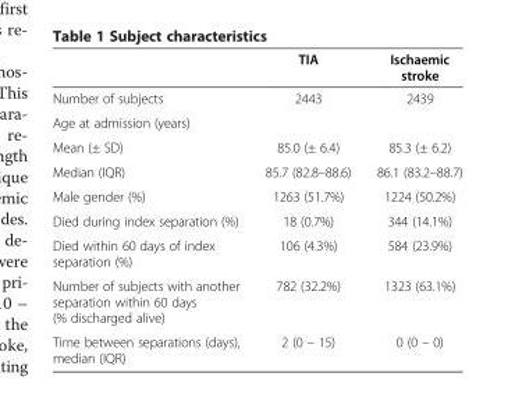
<table><thead><tr><td></td><td>TIA</td><td>Ischaemic stroke</td></tr></thead><tbody><tr><td>Number of subjects</td><td>2443</td><td>2439</td></tr><tr><td colspan="3">Age at admission (years)</td></tr><tr><td>Mean (± SD)</td><td>85.0 (± 6.4)</td><td>85.3 (± 6.2)</td></tr><tr><td>Median (IQR)</td><td>85.7 (82.8–88.6)</td><td>86.1 (83.2–88.7)</td></tr><tr><td>Male gender (%)</td><td>1263 (51.7%)</td><td>1224 (50.2%)</td></tr><tr><td>Died during index separation (%)</td><td>18 (0.7%)</td><td>344 (14.1%)</td></tr><tr><td>Died within 60 days of index separation (%)</td><td>106 (4.3%)</td><td>584 (23.9%)</td></tr><tr><td>Number of subjects with another separation within 60 days (% discharged alive)</td><td>782 (32.2%)</td><td>1323 (63.1%)</td></tr><tr><td>Time between separations (days), median (IQR)</td><td>2 (0 – 15)</td><td>0 (0 – 0)</td></tr></tbody></table>